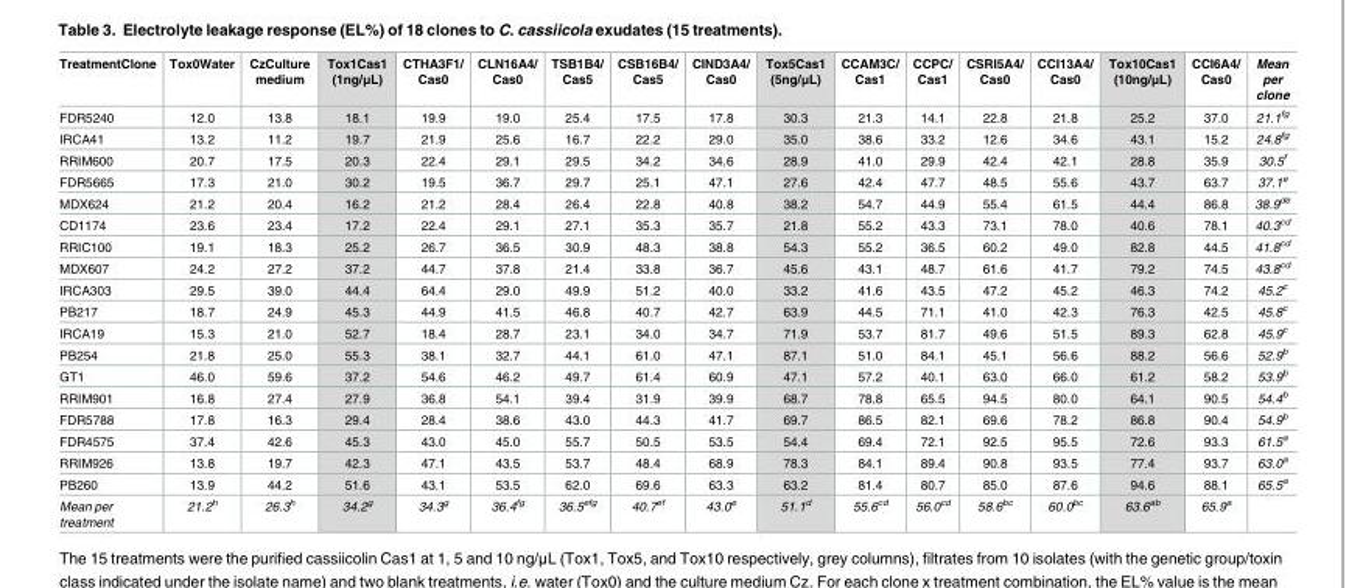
<table><thead><tr><td>TreatmentClone</td><td>Tox0Water</td><td>CzCulture medium</td><td>Tox1Cas1 (1ng/μL)</td><td>CTHA3F1/ Cas0</td><td>CLN16A4/ Cas0</td><td>TSB1B4/ Cas5</td><td>CSB16B4/ Cas5</td><td>CIND3A4/ Cas0</td><td>Tox5Cas1 (5ng/μL)</td><td>CCAM3C/ Cas1</td><td>CCPC/ Cas1</td><td>CSRI5A4/ Cas0</td><td>CCI13A4/ Cas0</td><td>Tox10Cas1 (10ng/μL)</td><td>CCI6A4/ Cas0</td><td>Mean per clone</td></tr></thead><tbody><tr><td>FDR5240</td><td>12.0</td><td>13.8</td><td>18.1</td><td>19.9</td><td>19.0</td><td>25.4</td><td>17.5</td><td>17.8</td><td>30.3</td><td>21.3</td><td>14.1</td><td>22.8</td><td>21.8</td><td>25.2</td><td>37.0</td><td>21.1<sup>fg</sup></td></tr><tr><td>IRCA41</td><td>13.2</td><td>11.2</td><td>19.7</td><td>21.9</td><td>25.6</td><td>16.7</td><td>22.2</td><td>29.0</td><td>35.0</td><td>38.6</td><td>33.2</td><td>12.6</td><td>34.6</td><td>43.1</td><td>15.2</td><td>24.8<sup>fg</sup></td></tr><tr><td>RRIM600</td><td>20.7</td><td>17.5</td><td>20.3</td><td>22.4</td><td>29.1</td><td>29.5</td><td>34.2</td><td>34.6</td><td>28.9</td><td>41.0</td><td>29.9</td><td>42.4</td><td>42.1</td><td>28.8</td><td>35.9</td><td>30.5<sup>f</sup></td></tr><tr><td>FDR5665</td><td>17.3</td><td>21.0</td><td>30.2</td><td>19.5</td><td>36.7</td><td>29.7</td><td>25.1</td><td>47.1</td><td>27.6</td><td>42.4</td><td>47.7</td><td>48.5</td><td>55.6</td><td>43.7</td><td>63.7</td><td>37.1<sup>e</sup></td></tr><tr><td>MDX624</td><td>21.2</td><td>20.4</td><td>16.2</td><td>21.2</td><td>28.4</td><td>26.4</td><td>22.8</td><td>40.8</td><td>38.2</td><td>54.7</td><td>44.9</td><td>55.4</td><td>61.5</td><td>44.4</td><td>86.8</td><td>38.9<sup>de</sup></td></tr><tr><td>CD1174</td><td>23.6</td><td>23.4</td><td>17.2</td><td>22.4</td><td>29.1</td><td>27.1</td><td>35.3</td><td>35.7</td><td>21.8</td><td>55.2</td><td>43.3</td><td>73.1</td><td>78.0</td><td>40.6</td><td>78.1</td><td>40.3<sup>cd</sup></td></tr><tr><td>RRIC100</td><td>19.1</td><td>18.3</td><td>25.2</td><td>26.7</td><td>36.5</td><td>30.9</td><td>48.3</td><td>38.8</td><td>54.3</td><td>55.2</td><td>36.5</td><td>60.2</td><td>49.0</td><td>82.8</td><td>44.5</td><td>41.8<sup>cd</sup></td></tr><tr><td>MDX607</td><td>24.2</td><td>27.2</td><td>37.2</td><td>44.7</td><td>37.8</td><td>21.4</td><td>33.8</td><td>36.7</td><td>45.6</td><td>43.1</td><td>48.7</td><td>61.6</td><td>41.7</td><td>79.2</td><td>74.5</td><td>43.8<sup>cd</sup></td></tr><tr><td>IRCA303</td><td>29.5</td><td>39.0</td><td>44.4</td><td>64.4</td><td>29.0</td><td>49.9</td><td>51.2</td><td>40.0</td><td>33.2</td><td>41.6</td><td>43.5</td><td>47.2</td><td>45.2</td><td>46.3</td><td>74.2</td><td>45.2<sup>c</sup></td></tr><tr><td>PB217</td><td>18.7</td><td>24.9</td><td>45.3</td><td>44.9</td><td>41.5</td><td>46.8</td><td>40.7</td><td>42.7</td><td>63.9</td><td>44.5</td><td>71.1</td><td>41.0</td><td>42.3</td><td>76.3</td><td>42.5</td><td>45.8<sup>c</sup></td></tr><tr><td>IRCA19</td><td>15.3</td><td>21.0</td><td>52.7</td><td>18.4</td><td>28.7</td><td>23.1</td><td>34.0</td><td>34.7</td><td>71.9</td><td>53.7</td><td>81.7</td><td>49.6</td><td>51.5</td><td>89.3</td><td>62.8</td><td>45.9<sup>c</sup></td></tr><tr><td>PB254</td><td>21.8</td><td>25.0</td><td>55.3</td><td>38.1</td><td>32.7</td><td>44.1</td><td>61.0</td><td>47.1</td><td>87.1</td><td>51.0</td><td>84.1</td><td>45.1</td><td>56.6</td><td>88.2</td><td>56.6</td><td>52.9<sup>b</sup></td></tr><tr><td>GT1</td><td>46.0</td><td>59.6</td><td>37.2</td><td>54.6</td><td>46.2</td><td>49.7</td><td>61.4</td><td>60.9</td><td>47.1</td><td>57.2</td><td>40.1</td><td>63.0</td><td>66.0</td><td>61.2</td><td>58.2</td><td>53.9<sup>b</sup></td></tr><tr><td>RRIM901</td><td>16.8</td><td>27.4</td><td>27.9</td><td>36.8</td><td>54.1</td><td>39.4</td><td>31.9</td><td>39.9</td><td>68.7</td><td>78.8</td><td>65.5</td><td>94.5</td><td>80.0</td><td>64.1</td><td>90.5</td><td>54.4<sup>b</sup></td></tr><tr><td>FDR5788</td><td>17.8</td><td>16.3</td><td>29.4</td><td>28.4</td><td>38.6</td><td>43.0</td><td>44.3</td><td>41.7</td><td>69.7</td><td>86.5</td><td>82.1</td><td>69.6</td><td>78.2</td><td>86.8</td><td>90.4</td><td>54.9<sup>b</sup></td></tr><tr><td>FDR4575</td><td>37.4</td><td>42.6</td><td>45.3</td><td>43.0</td><td>45.0</td><td>55.7</td><td>50.5</td><td>53.5</td><td>54.4</td><td>69.4</td><td>72.1</td><td>92.5</td><td>95.5</td><td>72.6</td><td>93.3</td><td>61.5<sup>a</sup></td></tr><tr><td>RRIM926</td><td>13.8</td><td>19.7</td><td>42.3</td><td>47.1</td><td>43.5</td><td>53.7</td><td>48.4</td><td>68.9</td><td>78.3</td><td>84.1</td><td>89.4</td><td>90.8</td><td>93.5</td><td>77.4</td><td>93.7</td><td>63.0<sup>a</sup></td></tr><tr><td>PB260</td><td>13.9</td><td>44.2</td><td>51.6</td><td>43.1</td><td>53.5</td><td>62.0</td><td>69.6</td><td>63.3</td><td>63.2</td><td>81.4</td><td>80.7</td><td>85.0</td><td>87.6</td><td>94.6</td><td>88.1</td><td>65.5<sup>a</sup></td></tr><tr><td>Mean per treatment</td><td>21.2<sup>h</sup></td><td>26.3<sup>h</sup></td><td>34.2<sup>g</sup></td><td>34.3<sup>g</sup></td><td>36.4<sup>fg</sup></td><td>36.5<sup>efg</sup></td><td>40.7<sup>ef</sup></td><td>43.0<sup>e</sup></td><td>51.1<sup>d</sup></td><td>55.6<sup>cd</sup></td><td>56.0<sup>cd</sup></td><td>58.6<sup>bc</sup></td><td>60.0<sup>bc</sup></td><td>63.6<sup>ab</sup></td><td>65.9<sup>a</sup></td><td></td></tr></tbody></table>